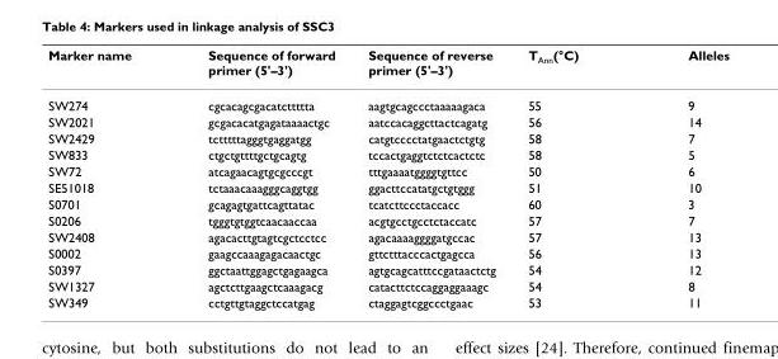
<table><thead><tr><td>Marker name</td><td>Sequence of forward primer (5&#x27;–3&#x27;)</td><td>Sequence of reverse primer (5&#x27;–3&#x27;)</td><td>TAnn(°C)</td><td>Alleles</td></tr></thead><tbody><tr><td>SW274</td><td>cgcacagcgacatcttttta</td><td>aagtgcagccctaaaaagaca</td><td>55</td><td>9</td></tr><tr><td>SW2021</td><td>gcgacacatgagataaaactgc</td><td>aatccacaggcttactcagatg</td><td>56</td><td>14</td></tr><tr><td>SW2429</td><td>tctttttagggtgaggatgg</td><td>catgtcccctatgaactctgtg</td><td>58</td><td>7</td></tr><tr><td>SW833</td><td>ctgctgttttgctgcagtg</td><td>tccactgaggtctctcactctc</td><td>58</td><td>5</td></tr><tr><td>SW72</td><td>atcagaacagtgcgcccgt</td><td>tttgaaaatggggtgttcc</td><td>50</td><td>6</td></tr><tr><td>SE51018</td><td>tctaaacaaagggcaggtgg</td><td>ggacttccatatgctgtggg</td><td>51</td><td>10</td></tr><tr><td>S0701</td><td>gcagagtgattcagttatac</td><td>tcatcttccctaccacc</td><td>60</td><td>3</td></tr><tr><td>S0206</td><td>tgggtgtggtcaacaaccaa</td><td>acgtgcctgcctctaccatc</td><td>57</td><td>7</td></tr><tr><td>SW2408</td><td>agacacttgtagtcgctcctcc</td><td>agacaaaaggggatgccac</td><td>57</td><td>13</td></tr><tr><td>S0002</td><td>gaagccaaagagacaactgc</td><td>gttctttacccactgagcca</td><td>56</td><td>13</td></tr><tr><td>S0397</td><td>ggctaattggagctgagaagca</td><td>agtgcagcatttccgataactctg</td><td>54</td><td>12</td></tr><tr><td>SW1327</td><td>agctcttgaagctcaaagacg</td><td>catacttctccaggaggaaagc</td><td>54</td><td>8</td></tr><tr><td>SW349</td><td>cctgttgtaggctccatgag</td><td>ctaggagtcggccctgaac</td><td>53</td><td>11</td></tr></tbody></table>